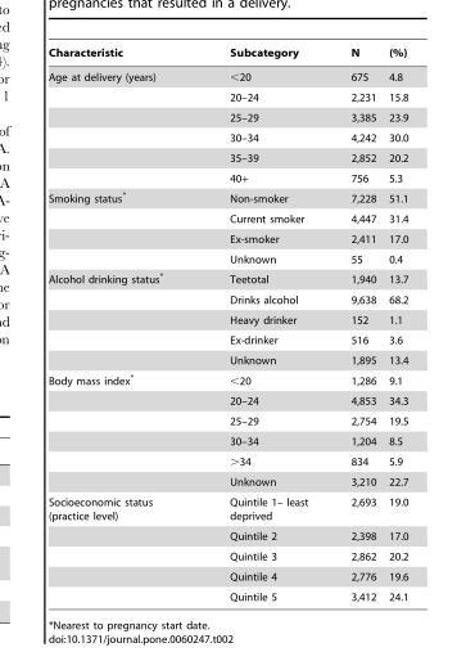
<table><thead><tr><td>Characteristic</td><td>Subcategory</td><td>N</td><td>(%)</td></tr></thead><tbody><tr><td rowspan="6">Age at delivery (years)</td><td>&lt;20</td><td>675</td><td>4.8</td></tr><tr><td>20–24</td><td>2,231</td><td>15.8</td></tr><tr><td>25–29</td><td>3,385</td><td>23.9</td></tr><tr><td>30–34</td><td>4,242</td><td>30.0</td></tr><tr><td>35–39</td><td>2,852</td><td>20.2</td></tr><tr><td>40+</td><td>756</td><td>5.3</td></tr><tr><td rowspan="4">Smoking status*</td><td>Non-smoker</td><td>7,228</td><td>51.1</td></tr><tr><td>Current smoker</td><td>4,447</td><td>31.4</td></tr><tr><td>Ex-smoker</td><td>2,411</td><td>17.0</td></tr><tr><td>Unknown</td><td>55</td><td>0.4</td></tr><tr><td rowspan="5">Alcohol drinking status*</td><td>Teetotal</td><td>1,940</td><td>13.7</td></tr><tr><td>Drinks alcohol</td><td>9,638</td><td>68.2</td></tr><tr><td>Heavy drinker</td><td>152</td><td>1.1</td></tr><tr><td>Ex-drinker</td><td>516</td><td>3.6</td></tr><tr><td>Unknown</td><td>1,895</td><td>13.4</td></tr><tr><td rowspan="6">Body mass index*</td><td>&lt;20</td><td>1,286</td><td>9.1</td></tr><tr><td>20–24</td><td>4,853</td><td>34.3</td></tr><tr><td>25–29</td><td>2,754</td><td>19.5</td></tr><tr><td>30–34</td><td>1,204</td><td>8.5</td></tr><tr><td>&gt;34</td><td>834</td><td>5.9</td></tr><tr><td>Unknown</td><td>3,210</td><td>22.7</td></tr><tr><td rowspan="5">Socioeconomic status (practice level)</td><td>Quintile 1– least deprived</td><td>2,693</td><td>19.0</td></tr><tr><td>Quintile 2</td><td>2,398</td><td>17.0</td></tr><tr><td>Quintile 3</td><td>2,862</td><td>20.2</td></tr><tr><td>Quintile 4</td><td>2,776</td><td>19.6</td></tr><tr><td>Quintile 5</td><td>3,412</td><td>24.1</td></tr></tbody></table>